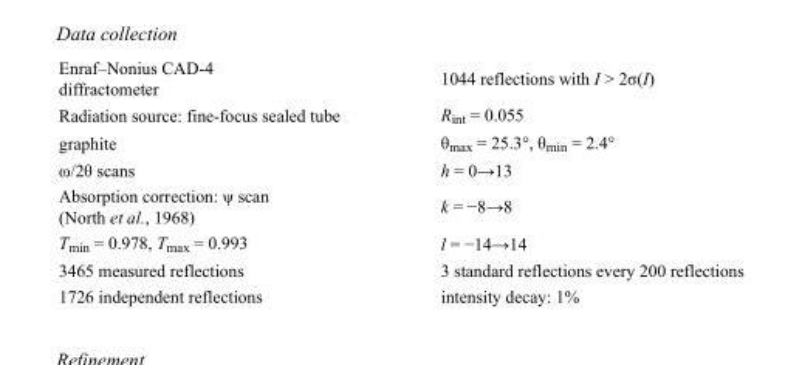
<table><tbody><tr><td>Enraf–Nonius CAD-4 diffractometer</td><td>1044 reflections with I &gt; 2σ(I)</td></tr><tr><td>Radiation source: fine-focus sealed tube</td><td>R<sub>int</sub> = 0.055</td></tr><tr><td>graphite</td><td>θ<sub>max</sub> = 25.3°, θ<sub>min</sub> = 2.4°</td></tr><tr><td>ω/2θ scans</td><td>h = 0→13</td></tr><tr><td>Absorption correction: ψ scan (North et al., 1968)</td><td>k = −8→8</td></tr><tr><td>T<sub>min</sub> = 0.978, T<sub>max</sub> = 0.993</td><td>l = −14→14</td></tr><tr><td>3465 measured reflections</td><td>3 standard reflections every 200 reflections</td></tr><tr><td>1726 independent reflections</td><td>intensity decay: 1%</td></tr></tbody></table>